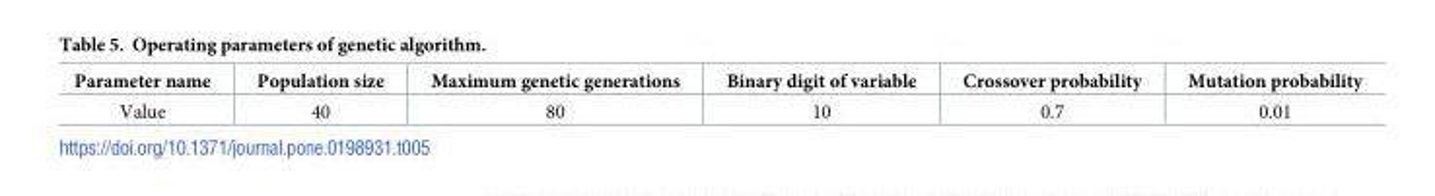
<table><thead><tr><td>Parameter name</td><td>Population size</td><td>Maximum genetic generations</td><td>Binary digit of variable</td><td>Crossover probability</td><td>Mutation probability</td></tr></thead><tbody><tr><td>Value</td><td>40</td><td>80</td><td>10</td><td>0.7</td><td>0.01</td></tr></tbody></table>